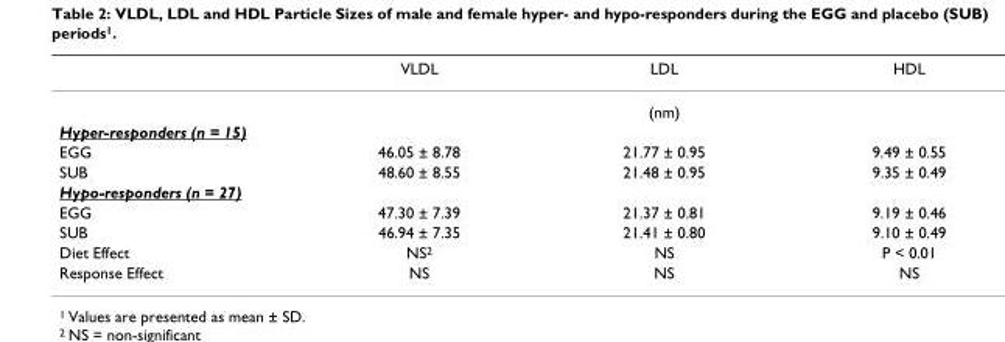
<table><thead><tr><td></td><td>VLDL</td><td>LDL</td><td>HDL</td></tr></thead><tbody><tr><td></td><td colspan="3">(nm)</td></tr><tr><td colspan="4">Hyper-responders (n = 15)</td></tr><tr><td>EGG</td><td>46.05 ± 8.78</td><td>21.77 ± 0.95</td><td>9.49 ± 0.55</td></tr><tr><td>SUB</td><td>48.60 ± 8.55</td><td>21.48 ± 0.95</td><td>9.35 ± 0.49</td></tr><tr><td colspan="4">Hypo-responders (n = 27)</td></tr><tr><td>EGG</td><td>47.30 ± 7.39</td><td>21.37 ± 0.81</td><td>9.19 ± 0.46</td></tr><tr><td>SUB</td><td>46.94 ± 7.35</td><td>21.41 ± 0.80</td><td>9.10 ± 0.49</td></tr><tr><td>Diet Effect</td><td>NS<sup>2</sup></td><td>NS</td><td>P &lt; 0.01</td></tr><tr><td>Response Effect</td><td>NS</td><td>NS</td><td>NS</td></tr></tbody></table>